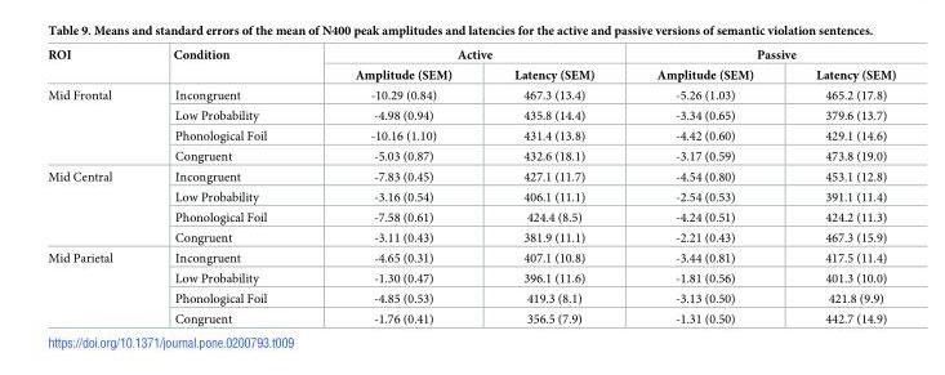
<table><thead><tr><td rowspan="2">ROI</td><td rowspan="2">Condition</td><td colspan="2">Active</td><td colspan="2">Passive</td></tr><tr><td>Amplitude (SEM)</td><td>Latency (SEM)</td><td>Amplitude (SEM)</td><td>Latency (SEM)</td></tr></thead><tbody><tr><td rowspan="4">Mid Frontal</td><td>Incongruent</td><td>-10.29 (0.84)</td><td>467.3 (13.4)</td><td>-5.26 (1.03)</td><td>465.2 (17.8)</td></tr><tr><td>Low Probability</td><td>-4.98 (0.94)</td><td>435.8 (14.4)</td><td>-3.34 (0.65)</td><td>379.6 (13.7)</td></tr><tr><td>Phonological Foil</td><td>-10.16 (1.10)</td><td>431.4 (13.8)</td><td>-4.42 (0.60)</td><td>429.1 (14.6)</td></tr><tr><td>Congruent</td><td>-5.03 (0.87)</td><td>432.6 (18.1)</td><td>-3.17 (0.59)</td><td>473.8 (19.0)</td></tr><tr><td rowspan="4">Mid Central</td><td>Incongruent</td><td>-7.83 (0.45)</td><td>427.1 (11.7)</td><td>-4.54 (0.80)</td><td>453.1 (12.8)</td></tr><tr><td>Low Probability</td><td>-3.16 (0.54)</td><td>406.1 (11.1)</td><td>-2.54 (0.53)</td><td>391.1 (11.4)</td></tr><tr><td>Phonological Foil</td><td>-7.58 (0.61)</td><td>424.4 (8.5)</td><td>-4.24 (0.51)</td><td>424.2 (11.3)</td></tr><tr><td>Congruent</td><td>-3.11 (0.43)</td><td>381.9 (11.1)</td><td>-2.21 (0.43)</td><td>467.3 (15.9)</td></tr><tr><td rowspan="4">Mid Parietal</td><td>Incongruent</td><td>-4.65 (0.31)</td><td>407.1 (10.8)</td><td>-3.44 (0.81)</td><td>417.5 (11.4)</td></tr><tr><td>Low Probability</td><td>-1.30 (0.47)</td><td>396.1 (11.6)</td><td>-1.81 (0.56)</td><td>401.3 (10.0)</td></tr><tr><td>Phonological Foil</td><td>-4.85 (0.53)</td><td>419.3 (8.1)</td><td>-3.13 (0.50)</td><td>421.8 (9.9)</td></tr><tr><td>Congruent</td><td>-1.76 (0.41)</td><td>356.5 (7.9)</td><td>-1.31 (0.50)</td><td>442.7 (14.9)</td></tr></tbody></table>